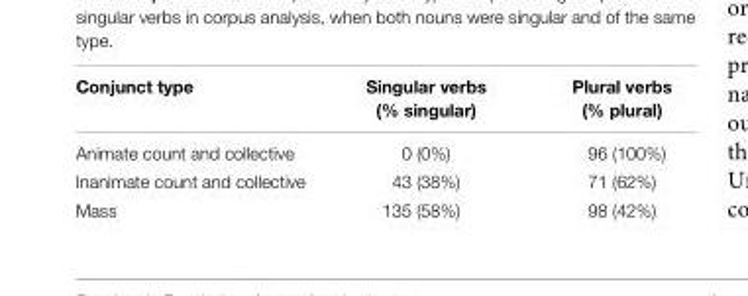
<table><thead><tr><td>Conjunct type</td><td>Singular verbs (% singular)</td><td>Plural verbs (% plural)</td></tr></thead><tbody><tr><td>Animate count and collective</td><td>0 (0%)</td><td>96 (100%)</td></tr><tr><td>Inanimate count and collective</td><td>43 (38%)</td><td>71 (62%)</td></tr><tr><td>Mass</td><td>135 (58%)</td><td>98 (42%)</td></tr></tbody></table>